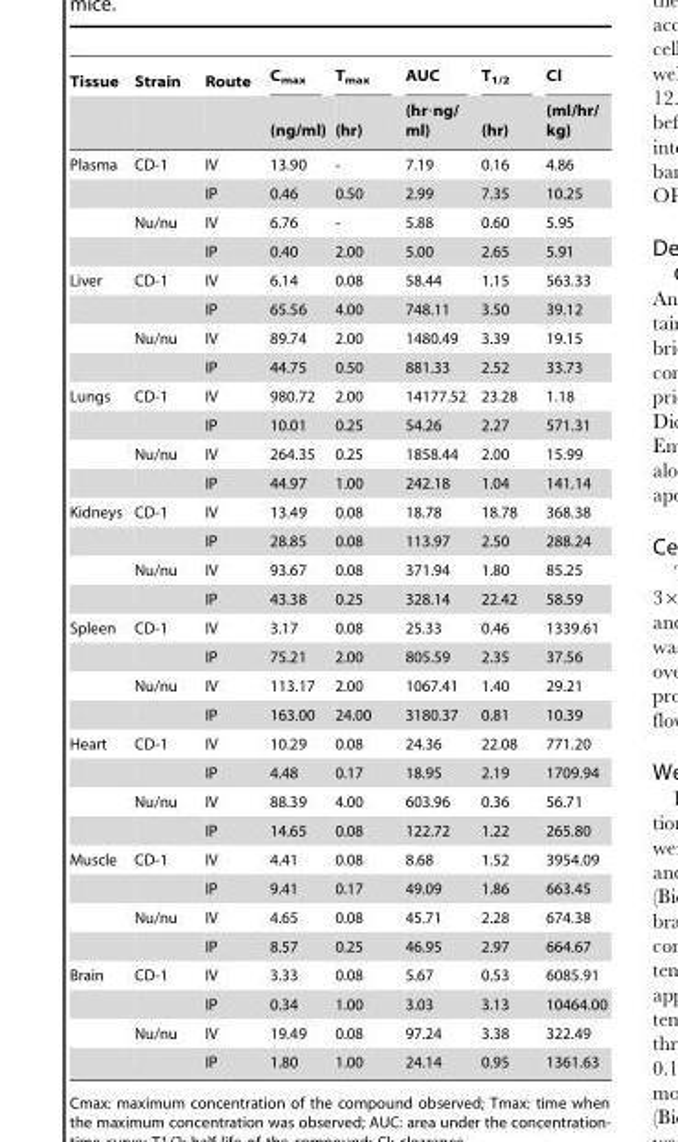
<table><thead><tr><td rowspan="2">Tissue</td><td rowspan="2">Strain</td><td rowspan="2">Route</td><td rowspan="2">C<sub>max</sub> (ng/ml)</td><td rowspan="2">T<sub>max</sub> (hr)</td><td rowspan="2">AUC (hr·ng/ ml)</td><td rowspan="2">T<sub>1/2</sub> (hr)</td><td rowspan="2">Cl (ml/hr/ kg)</td></tr><tr></tr></thead><tbody><tr><td rowspan="4">Plasma</td><td>CD-1</td><td>IV</td><td>13.90</td><td>-</td><td>7.19</td><td>0.16</td><td>4.86</td></tr><tr><td></td><td>IP</td><td>0.46</td><td>0.50</td><td>2.99</td><td>7.35</td><td>10.25</td></tr><tr><td>Nu/nu</td><td>IV</td><td>6.76</td><td>-</td><td>5.88</td><td>0.60</td><td>5.95</td></tr><tr><td></td><td>IP</td><td>0.40</td><td>2.00</td><td>5.00</td><td>2.65</td><td>5.91</td></tr><tr><td rowspan="4">Liver</td><td>CD-1</td><td>IV</td><td>6.14</td><td>0.08</td><td>58.44</td><td>1.15</td><td>563.33</td></tr><tr><td></td><td>IP</td><td>65.56</td><td>4.00</td><td>748.11</td><td>3.50</td><td>39.12</td></tr><tr><td>Nu/nu</td><td>IV</td><td>89.74</td><td>2.00</td><td>1480.49</td><td>3.39</td><td>19.15</td></tr><tr><td></td><td>IP</td><td>44.75</td><td>0.50</td><td>881.33</td><td>2.52</td><td>33.73</td></tr><tr><td rowspan="4">Lungs</td><td>CD-1</td><td>IV</td><td>980.72</td><td>2.00</td><td>14177.52</td><td>23.28</td><td>1.18</td></tr><tr><td></td><td>IP</td><td>10.01</td><td>0.25</td><td>54.26</td><td>2.27</td><td>571.31</td></tr><tr><td>Nu/nu</td><td>IV</td><td>264.35</td><td>0.25</td><td>1858.44</td><td>2.00</td><td>15.99</td></tr><tr><td></td><td>IP</td><td>44.97</td><td>1.00</td><td>242.18</td><td>1.04</td><td>141.14</td></tr><tr><td rowspan="4">Kidneys</td><td>CD-1</td><td>IV</td><td>13.49</td><td>0.08</td><td>18.78</td><td>18.78</td><td>368.38</td></tr><tr><td></td><td>IP</td><td>28.85</td><td>0.08</td><td>113.97</td><td>2.50</td><td>288.24</td></tr><tr><td>Nu/nu</td><td>IV</td><td>93.67</td><td>0.08</td><td>371.94</td><td>1.80</td><td>85.25</td></tr><tr><td></td><td>IP</td><td>43.38</td><td>0.25</td><td>328.14</td><td>22.42</td><td>58.59</td></tr><tr><td rowspan="4">Spleen</td><td>CD-1</td><td>IV</td><td>3.17</td><td>0.08</td><td>25.33</td><td>0.46</td><td>1339.61</td></tr><tr><td></td><td>IP</td><td>75.21</td><td>2.00</td><td>805.59</td><td>2.35</td><td>37.56</td></tr><tr><td>Nu/nu</td><td>IV</td><td>113.17</td><td>2.00</td><td>1067.41</td><td>1.40</td><td>29.21</td></tr><tr><td></td><td>IP</td><td>163.00</td><td>24.00</td><td>3180.37</td><td>0.81</td><td>10.39</td></tr><tr><td rowspan="4">Heart</td><td>CD-1</td><td>IV</td><td>10.29</td><td>0.08</td><td>24.36</td><td>22.08</td><td>771.20</td></tr><tr><td></td><td>IP</td><td>4.48</td><td>0.17</td><td>18.95</td><td>2.19</td><td>1709.94</td></tr><tr><td>Nu/nu</td><td>IV</td><td>88.39</td><td>4.00</td><td>603.96</td><td>0.36</td><td>56.71</td></tr><tr><td></td><td>IP</td><td>14.65</td><td>0.08</td><td>122.72</td><td>1.22</td><td>265.80</td></tr><tr><td rowspan="4">Muscle</td><td>CD-1</td><td>IV</td><td>4.41</td><td>0.08</td><td>8.68</td><td>1.52</td><td>3954.09</td></tr><tr><td></td><td>IP</td><td>9.41</td><td>0.17</td><td>49.09</td><td>1.86</td><td>663.45</td></tr><tr><td>Nu/nu</td><td>IV</td><td>4.65</td><td>0.08</td><td>45.71</td><td>2.28</td><td>674.38</td></tr><tr><td></td><td>IP</td><td>8.57</td><td>0.25</td><td>46.95</td><td>2.97</td><td>664.67</td></tr><tr><td rowspan="4">Brain</td><td>CD-1</td><td>IV</td><td>3.33</td><td>0.08</td><td>5.67</td><td>0.53</td><td>6085.91</td></tr><tr><td></td><td>IP</td><td>0.34</td><td>1.00</td><td>3.03</td><td>3.13</td><td>10464.00</td></tr><tr><td>Nu/nu</td><td>IV</td><td>19.49</td><td>0.08</td><td>97.24</td><td>3.38</td><td>322.49</td></tr><tr><td></td><td>IP</td><td>1.80</td><td>1.00</td><td>24.14</td><td>0.95</td><td>1361.63</td></tr></tbody></table>